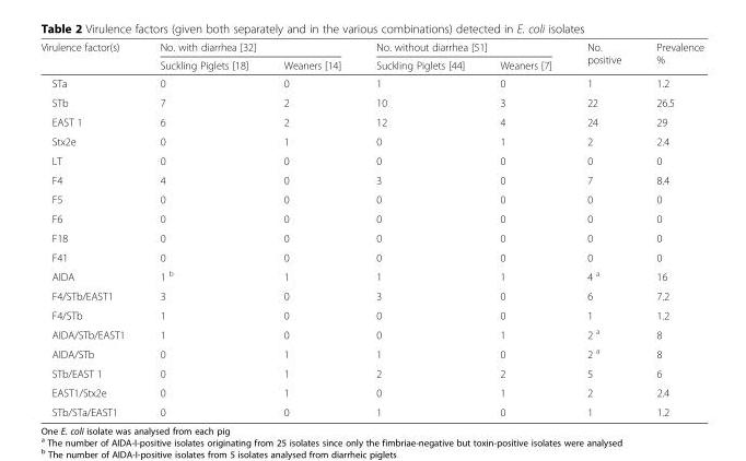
<table><thead><tr><td rowspan="2">Virulence factor(s)</td><td colspan="2">No. with diarrhea [32]</td><td colspan="2">No. without diarrhea [51]</td><td rowspan="2">No. positive</td><td rowspan="2">Prevalence %</td></tr><tr><td>Suckling Piglets [18]</td><td>Weaners [14]</td><td>Suckling Piglets [44]</td><td>Weaners [7]</td></tr></thead><tbody><tr><td>STa</td><td>0</td><td>0</td><td>1</td><td>0</td><td>1</td><td>1.2</td></tr><tr><td>STb</td><td>7</td><td>2</td><td>10</td><td>3</td><td>22</td><td>26.5</td></tr><tr><td>EAST 1</td><td>6</td><td>2</td><td>12</td><td>4</td><td>24</td><td>29</td></tr><tr><td>Stx2e</td><td>0</td><td>1</td><td>0</td><td>1</td><td>2</td><td>2.4</td></tr><tr><td>LT</td><td>0</td><td>0</td><td>0</td><td>0</td><td>0</td><td>0</td></tr><tr><td>F4</td><td>4</td><td>0</td><td>3</td><td>0</td><td>7</td><td>8.4</td></tr><tr><td>F5</td><td>0</td><td>0</td><td>0</td><td>0</td><td>0</td><td>0</td></tr><tr><td>F6</td><td>0</td><td>0</td><td>0</td><td>0</td><td>0</td><td>0</td></tr><tr><td>F18</td><td>0</td><td>0</td><td>0</td><td>0</td><td>0</td><td>0</td></tr><tr><td>F41</td><td>0</td><td>0</td><td>0</td><td>0</td><td>0</td><td>0</td></tr><tr><td>AIDA</td><td>1 <sup>b</sup></td><td>1</td><td>1</td><td>1</td><td>4 <sup>a</sup></td><td>16</td></tr><tr><td>F4/STb/EAST1</td><td>3</td><td>0</td><td>3</td><td>0</td><td>6</td><td>7.2</td></tr><tr><td>F4/STb</td><td>1</td><td>0</td><td>0</td><td>0</td><td>1</td><td>1.2</td></tr><tr><td>AIDA/STb/EAST1</td><td>1</td><td>0</td><td>0</td><td>1</td><td>2 <sup>a</sup></td><td>8</td></tr><tr><td>AIDA/STb</td><td>0</td><td>1</td><td>1</td><td>0</td><td>2 <sup>a</sup></td><td>8</td></tr><tr><td>STb/EAST 1</td><td>0</td><td>1</td><td>2</td><td>2</td><td>5</td><td>6</td></tr><tr><td>EAST1/Stx2e</td><td>0</td><td>1</td><td>0</td><td>1</td><td>2</td><td>2.4</td></tr><tr><td>STb/STa/EAST1</td><td>0</td><td>0</td><td>1</td><td>0</td><td>1</td><td>1.2</td></tr></tbody></table>